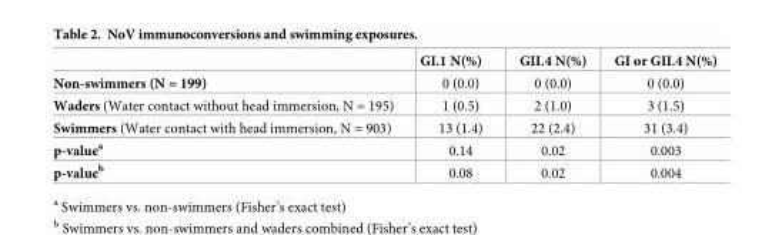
<table><thead><tr><td></td><td>GI.1 N(%)</td><td>GII.4 N(%)</td><td>GI or GII.4 N(%)</td></tr></thead><tbody><tr><td>Non-swimmers (N = 199)</td><td>0 (0.0)</td><td>0 (0.0)</td><td>0 (0.0)</td></tr><tr><td>Waders (Water contact without head immersion, N = 195)</td><td>1 (0.5)</td><td>2 (1.0)</td><td>3 (1.5)</td></tr><tr><td>Swimmers (Water contact with head immersion, N = 903)</td><td>13 (1.4)</td><td>22 (2.4)</td><td>31 (3.4)</td></tr><tr><td>p-value<sup>a</sup></td><td>0.14</td><td>0.02</td><td>0.003</td></tr><tr><td>p-value<sup>b</sup></td><td>0.08</td><td>0.02</td><td>0.004</td></tr></tbody></table>